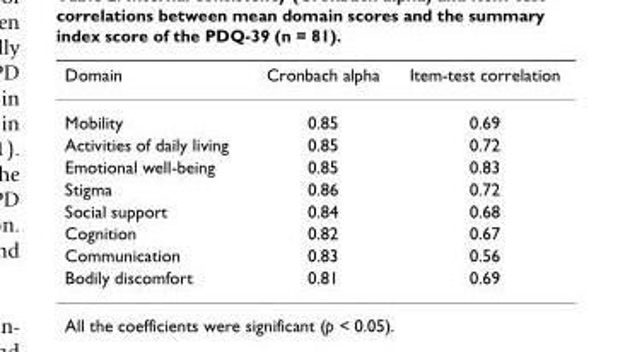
<table><thead><tr><td>Domain</td><td>Cronbach alpha</td><td>Item-test correlation</td></tr></thead><tbody><tr><td>Mobility</td><td>0.85</td><td>0.69</td></tr><tr><td>Activities of daily living</td><td>0.85</td><td>0.72</td></tr><tr><td>Emotional well-being</td><td>0.85</td><td>0.83</td></tr><tr><td>Stigma</td><td>0.86</td><td>0.72</td></tr><tr><td>Social support</td><td>0.84</td><td>0.68</td></tr><tr><td>Cognition</td><td>0.82</td><td>0.67</td></tr><tr><td>Communication</td><td>0.83</td><td>0.56</td></tr><tr><td>Bodily discomfort</td><td>0.81</td><td>0.69</td></tr></tbody></table>